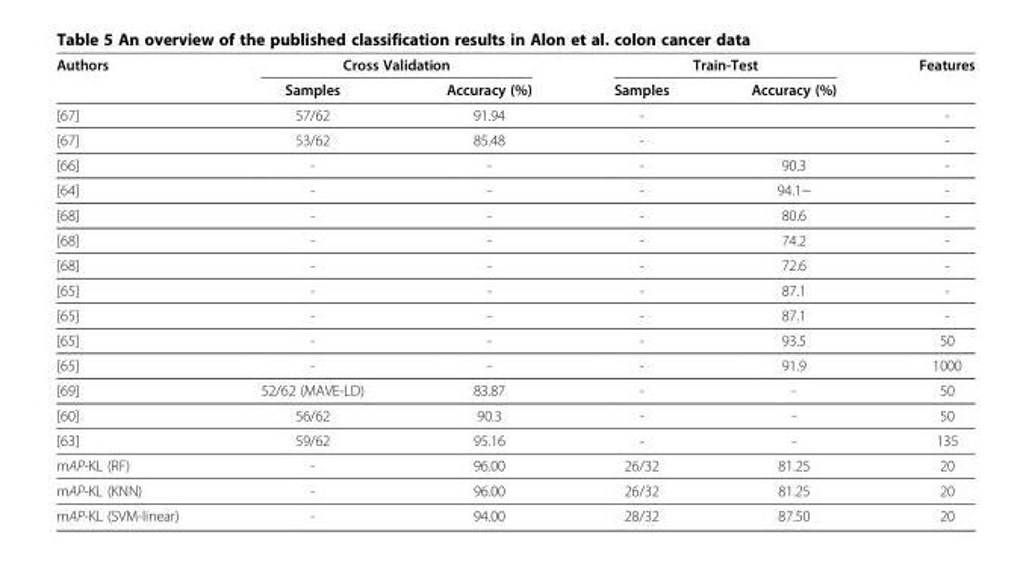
<table><thead><tr><td rowspan="2">Authors</td><td colspan="2">Cross Validation</td><td colspan="2">Train-Test</td><td rowspan="2">Features</td></tr><tr><td>Samples</td><td>Accuracy (%)</td><td>Samples</td><td>Accuracy (%)</td></tr></thead><tbody><tr><td>[67]</td><td>57/62</td><td>91.94</td><td>-</td><td></td><td>-</td></tr><tr><td>[67]</td><td>53/62</td><td>85.48</td><td>-</td><td></td><td>-</td></tr><tr><td>[66]</td><td>-</td><td>-</td><td>-</td><td>90.3</td><td>-</td></tr><tr><td>[64]</td><td>-</td><td>-</td><td>-</td><td>94.1~</td><td>-</td></tr><tr><td>[68]</td><td>-</td><td>-</td><td>-</td><td>80.6</td><td>-</td></tr><tr><td>[68]</td><td>-</td><td>-</td><td>-</td><td>74.2</td><td>-</td></tr><tr><td>[68]</td><td>-</td><td>-</td><td>-</td><td>72.6</td><td>-</td></tr><tr><td>[65]</td><td>-</td><td>-</td><td>-</td><td>87.1</td><td>-</td></tr><tr><td>[65]</td><td>-</td><td>-</td><td>-</td><td>87.1</td><td>-</td></tr><tr><td>[65]</td><td>-</td><td>-</td><td>-</td><td>93.5</td><td>50</td></tr><tr><td>[65]</td><td>-</td><td>-</td><td>-</td><td>91.9</td><td>1000</td></tr><tr><td>[69]</td><td>52/62 (MAVE-LD)</td><td>83.87</td><td>-</td><td>-</td><td>50</td></tr><tr><td>[60]</td><td>56/62</td><td>90.3</td><td>-</td><td>-</td><td>50</td></tr><tr><td>[63]</td><td>59/62</td><td>95.16</td><td>-</td><td>-</td><td>135</td></tr><tr><td>mAP-KL (RF)</td><td>-</td><td>96.00</td><td>26/32</td><td>81.25</td><td>20</td></tr><tr><td>mAP-KL (KNN)</td><td>-</td><td>96.00</td><td>26/32</td><td>81.25</td><td>20</td></tr><tr><td>mAP-KL (SVM-linear)</td><td>-</td><td>94.00</td><td>28/32</td><td>87.50</td><td>20</td></tr></tbody></table>